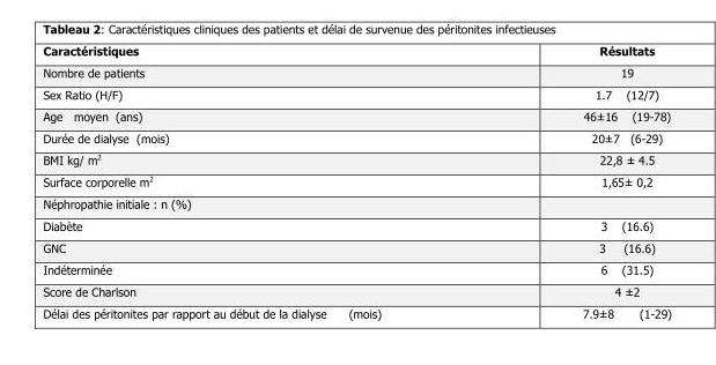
<table><thead><tr><td>Caractéristiques</td><td>Résultats</td></tr></thead><tbody><tr><td>Nombre de patients</td><td>19</td></tr><tr><td>Sex Ratio (H/F)</td><td>1.7 (12/7)</td></tr><tr><td>Age moyen (ans)</td><td>46±16 (19-78)</td></tr><tr><td>Durée de dialyse (mois)</td><td>20±7 (6-29)</td></tr><tr><td>BMI kg/ m<sup>2</sup></td><td>22,8 ± 4.5</td></tr><tr><td>Surface corporelle m<sup>2</sup></td><td>1,65± 0,2</td></tr><tr><td colspan="2">Néphropathie initiale : n (%)</td></tr><tr><td>Diabète</td><td>3 (16.6)</td></tr><tr><td>GNC</td><td>3 (16.6)</td></tr><tr><td>Indéterminée</td><td>6 (31.5)</td></tr><tr><td>Score de Charlson</td><td>4 ±2</td></tr><tr><td>Délai des péritonites par rapport au début de la dialyse (mois)</td><td>7.9±8 (1-29)</td></tr></tbody></table>